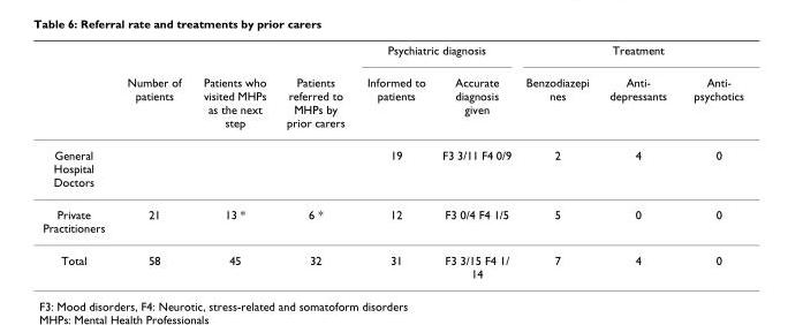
<table><thead><tr><td rowspan="2"></td><td rowspan="2">Number of patients</td><td rowspan="2">Patients who visited MHPs as the next step</td><td rowspan="2">Patients referred to MHPs by prior carers</td><td colspan="2">Psychiatric diagnosis</td><td colspan="3">Treatment</td></tr><tr><td>Informed to patients</td><td>Accurate diagnosis given</td><td>Benzodiazepi nes</td><td>Anti- depressants</td><td>Anti- psychotics</td></tr></thead><tbody><tr><td>General Hospital Doctors</td><td></td><td></td><td></td><td>19</td><td>F3 3/11 F4 0/9</td><td>2</td><td>4</td><td>0</td></tr><tr><td>Private Practitioners</td><td>21</td><td>13 *</td><td>6 *</td><td>12</td><td>F3 0/4 F4 1/5</td><td>5</td><td>0</td><td>0</td></tr><tr><td>Total</td><td>58</td><td>45</td><td>32</td><td>31</td><td>F3 3/15 F4 1/ 14</td><td>7</td><td>4</td><td>0</td></tr></tbody></table>